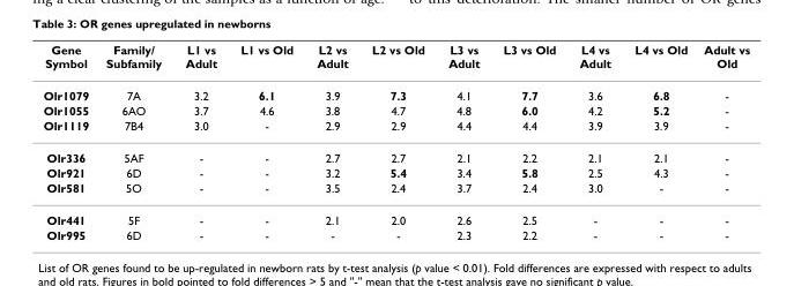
<table><thead><tr><td>Gene Symbol</td><td>Family/ Subfamily</td><td>L1 vs Adult</td><td>L1 vs Old</td><td>L2 vs Adult</td><td>L2 vs Old</td><td>L3 vs Adult</td><td>L3 vs Old</td><td>L4 vs Adult</td><td>L4 vs Old</td><td>Adult vs Old</td></tr></thead><tbody><tr><td>Olr1079</td><td>7A</td><td>3.2</td><td>6.1</td><td>3.9</td><td>7.3</td><td>4.1</td><td>7.7</td><td>3.6</td><td>6.8</td><td>-</td></tr><tr><td>Olr1055</td><td>6AO</td><td>3.7</td><td>4.6</td><td>3.8</td><td>4.7</td><td>4.8</td><td>6.0</td><td>4.2</td><td>5.2</td><td>-</td></tr><tr><td>Olr1119</td><td>7B4</td><td>3.0</td><td>-</td><td>2.9</td><td>2.9</td><td>4.4</td><td>4.4</td><td>3.9</td><td>3.9</td><td>-</td></tr><tr><td>Olr336</td><td>5AF</td><td>-</td><td>-</td><td>2.7</td><td>2.7</td><td>2.1</td><td>2.2</td><td>2.1</td><td>2.1</td><td>-</td></tr><tr><td>Olr921</td><td>6D</td><td>-</td><td>-</td><td>3.2</td><td>5.4</td><td>3.4</td><td>5.8</td><td>2.5</td><td>4.3</td><td>-</td></tr><tr><td>Olr581</td><td>5O</td><td>-</td><td>-</td><td>3.5</td><td>2.4</td><td>3.7</td><td>2.4</td><td>3.0</td><td>-</td><td>-</td></tr><tr><td>Olr441</td><td>5F</td><td>-</td><td>-</td><td>2.1</td><td>2.0</td><td>2.6</td><td>2.5</td><td>-</td><td>-</td><td>-</td></tr><tr><td>Olr995</td><td>6D</td><td>-</td><td>-</td><td>-</td><td>-</td><td>2.3</td><td>2.2</td><td>-</td><td>-</td><td>-</td></tr></tbody></table>